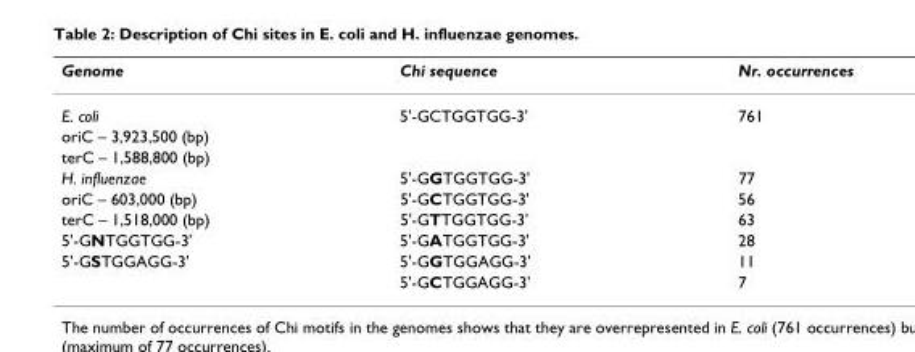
<table><thead><tr><td>Genome</td><td>Chi sequence</td><td>Nr. occurrences</td></tr></thead><tbody><tr><td>E. coli</td><td>5&#x27;-GCTGGTGG-3&#x27;</td><td>761</td></tr><tr><td colspan="3">oriC – 3,923,500 (bp)</td></tr><tr><td colspan="3">terC – 1,588,800 (bp)</td></tr><tr><td>H. influenzae</td><td>5&#x27;-GGTGGTGG-3&#x27;</td><td>77</td></tr><tr><td>oriC – 603,000 (bp)</td><td>5&#x27;-GCTGGTGG-3&#x27;</td><td>56</td></tr><tr><td>terC – 1,518,000 (bp)</td><td>5&#x27;-GTTGGTGG-3&#x27;</td><td>63</td></tr><tr><td>5&#x27;-GNTGGTGG-3&#x27;</td><td>5&#x27;-GATGGTGG-3&#x27;</td><td>28</td></tr><tr><td rowspan="2">5&#x27;-GSTGGAGG-3&#x27;</td><td>5&#x27;-GGTGGAGG-3&#x27;</td><td>11</td></tr><tr><td>5&#x27;-GCTGGAGG-3&#x27;</td><td>7</td></tr></tbody></table>